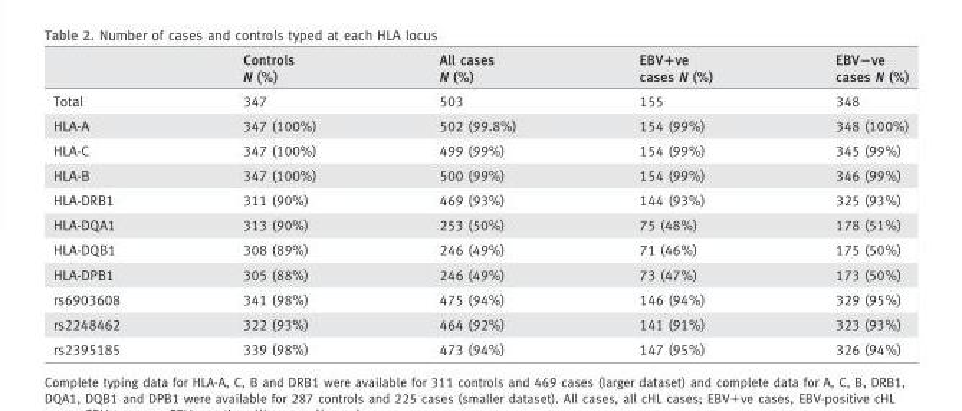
<table><thead><tr><td></td><td>Controls N (%)</td><td>All cases N (%)</td><td>EBV+ve cases N (%)</td><td>EBV−ve cases N (%)</td></tr></thead><tbody><tr><td>Total</td><td>347</td><td>503</td><td>155</td><td>348</td></tr><tr><td>HLA-A</td><td>347 (100%)</td><td>502 (99.8%)</td><td>154 (99%)</td><td>348 (100%)</td></tr><tr><td>HLA-C</td><td>347 (100%)</td><td>499 (99%)</td><td>154 (99%)</td><td>345 (99%)</td></tr><tr><td>HLA-B</td><td>347 (100%)</td><td>500 (99%)</td><td>154 (99%)</td><td>346 (99%)</td></tr><tr><td>HLA-DRB1</td><td>311 (90%)</td><td>469 (93%)</td><td>144 (93%)</td><td>325 (93%)</td></tr><tr><td>HLA-DQA1</td><td>313 (90%)</td><td>253 (50%)</td><td>75 (48%)</td><td>178 (51%)</td></tr><tr><td>HLA-DQB1</td><td>308 (89%)</td><td>246 (49%)</td><td>71 (46%)</td><td>175 (50%)</td></tr><tr><td>HLA-DPB1</td><td>305 (88%)</td><td>246 (49%)</td><td>73 (47%)</td><td>173 (50%)</td></tr><tr><td>rs6903608</td><td>341 (98%)</td><td>475 (94%)</td><td>146 (94%)</td><td>329 (95%)</td></tr><tr><td>rs2248462</td><td>322 (93%)</td><td>464 (92%)</td><td>141 (91%)</td><td>323 (93%)</td></tr><tr><td>rs2395185</td><td>339 (98%)</td><td>473 (94%)</td><td>147 (95%)</td><td>326 (94%)</td></tr></tbody></table>